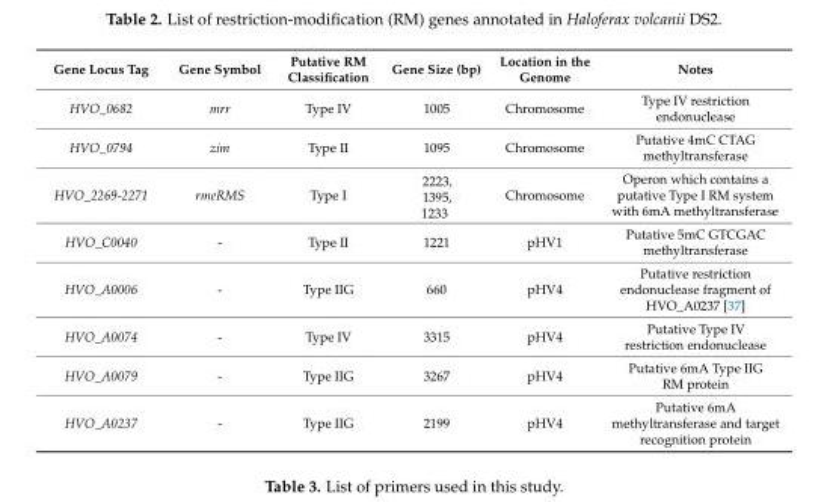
<table><thead><tr><td>Gene Locus Tag</td><td>Gene Symbol</td><td>Putative RM Classification</td><td>Gene Size (bp)</td><td>Location in the Genome</td><td>Notes</td></tr></thead><tbody><tr><td>HVO_0682</td><td>mrr</td><td>Type IV</td><td>1005</td><td>Chromosome</td><td>Type IV restriction endonuclease</td></tr><tr><td>HVO_0794</td><td>zim</td><td>Type II</td><td>1095</td><td>Chromosome</td><td>Putative 4mC CTAG methyltransferase</td></tr><tr><td>HVO_2269-2271</td><td>rmeRMS</td><td>Type I</td><td>2223, 1395, 1233</td><td>Chromosome</td><td>Operon which contains a putative Type I RM system with 6mA methyltransferase</td></tr><tr><td>HVO_C0040</td><td>-</td><td>Type II</td><td>1221</td><td>pHV1</td><td>Putative 5mC GTCGAC methyltransferase</td></tr><tr><td>HVO_A0006</td><td>-</td><td>Type IIG</td><td>660</td><td>pHV4</td><td>Putative restriction endonuclease fragment of HVO_A0237 [37]</td></tr><tr><td>HVO_A0074</td><td>-</td><td>Type IV</td><td>3315</td><td>pHV4</td><td>Putative Type IV restriction endonuclease</td></tr><tr><td>HVO_A0079</td><td>-</td><td>Type IIG</td><td>3267</td><td>pHV4</td><td>Putative 6mA Type IIG RM protein</td></tr><tr><td>HVO_A0237</td><td>-</td><td>Type IIG</td><td>2199</td><td>pHV4</td><td>Putative 6mA methyltransferase and target recognition protein</td></tr></tbody></table>